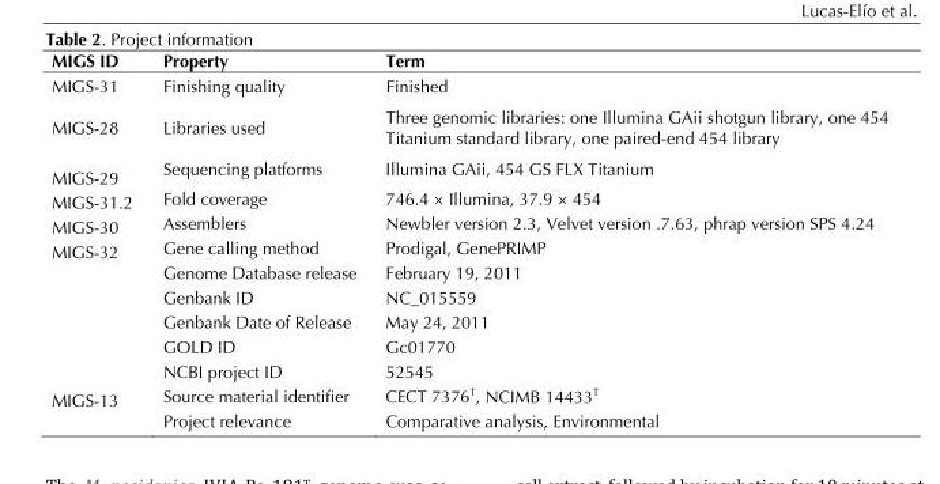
<table><thead><tr><td>MIGS ID</td><td>Property</td><td>Term</td></tr></thead><tbody><tr><td>MIGS-31</td><td>Finishing quality</td><td>Finished</td></tr><tr><td>MIGS-28</td><td>Libraries used</td><td>Three genomic libraries: one Illumina GAii shotgun library, one 454 Titanium standard library, one paired-end 454 library</td></tr><tr><td>MIGS-29</td><td>Sequencing platforms</td><td>Illumina GAii, 454 GS FLX Titanium</td></tr><tr><td>MIGS-31.2</td><td>Fold coverage</td><td>746.4 × Illumina, 37.9 × 454</td></tr><tr><td>MIGS-30</td><td>Assemblers</td><td>Newbler version 2.3, Velvet version .7.63, phrap version SPS 4.24</td></tr><tr><td rowspan="6">MIGS-32</td><td>Gene calling method</td><td>Prodigal, GenePRIMP</td></tr><tr><td>Genome Database release</td><td>February 19, 2011</td></tr><tr><td>Genbank ID</td><td>NC_015559</td></tr><tr><td>Genbank Date of Release</td><td>May 24, 2011</td></tr><tr><td>GOLD ID</td><td>Gc01770</td></tr><tr><td>NCBI project ID</td><td>52545</td></tr><tr><td rowspan="2">MIGS-13</td><td>Source material identifier</td><td>CECT 7376<sup>T</sup>, NCIMB 14433<sup>T</sup></td></tr><tr><td>Project relevance</td><td>Comparative analysis, Environmental</td></tr></tbody></table>